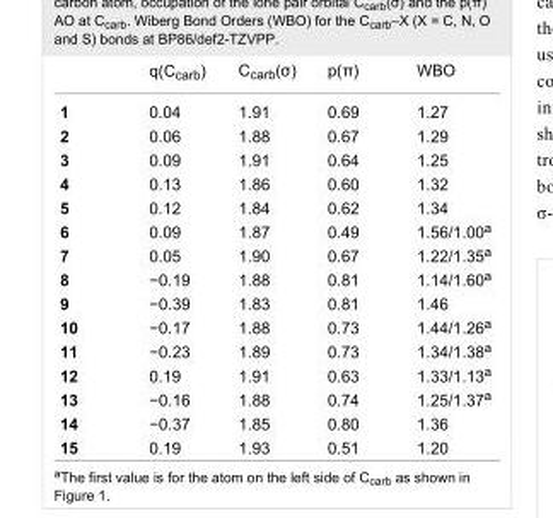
<table><thead><tr><td></td><td>q(C<sub>carb</sub>)</td><td>C<sub>carb</sub>(σ)</td><td>p(π)</td><td>WBO</td></tr></thead><tbody><tr><td>1</td><td>0.04</td><td>1.91</td><td>0.69</td><td>1.27</td></tr><tr><td>2</td><td>0.06</td><td>1.88</td><td>0.67</td><td>1.29</td></tr><tr><td>3</td><td>0.09</td><td>1.91</td><td>0.64</td><td>1.25</td></tr><tr><td>4</td><td>0.13</td><td>1.86</td><td>0.60</td><td>1.32</td></tr><tr><td>5</td><td>0.12</td><td>1.84</td><td>0.62</td><td>1.34</td></tr><tr><td>6</td><td>0.09</td><td>1.87</td><td>0.49</td><td>1.56/1.00<sup>a</sup></td></tr><tr><td>7</td><td>0.05</td><td>1.90</td><td>0.67</td><td>1.22/1.35<sup>a</sup></td></tr><tr><td>8</td><td>−0.19</td><td>1.88</td><td>0.81</td><td>1.14/1.60<sup>a</sup></td></tr><tr><td>9</td><td>−0.39</td><td>1.83</td><td>0.81</td><td>1.46</td></tr><tr><td>10</td><td>−0.17</td><td>1.88</td><td>0.73</td><td>1.44/1.26<sup>a</sup></td></tr><tr><td>11</td><td>−0.23</td><td>1.89</td><td>0.73</td><td>1.34/1.38<sup>a</sup></td></tr><tr><td>12</td><td>0.19</td><td>1.91</td><td>0.63</td><td>1.33/1.13<sup>a</sup></td></tr><tr><td>13</td><td>−0.16</td><td>1.88</td><td>0.74</td><td>1.25/1.37<sup>a</sup></td></tr><tr><td>14</td><td>−0.37</td><td>1.85</td><td>0.80</td><td>1.36</td></tr><tr><td>15</td><td>0.19</td><td>1.93</td><td>0.51</td><td>1.20</td></tr></tbody></table>